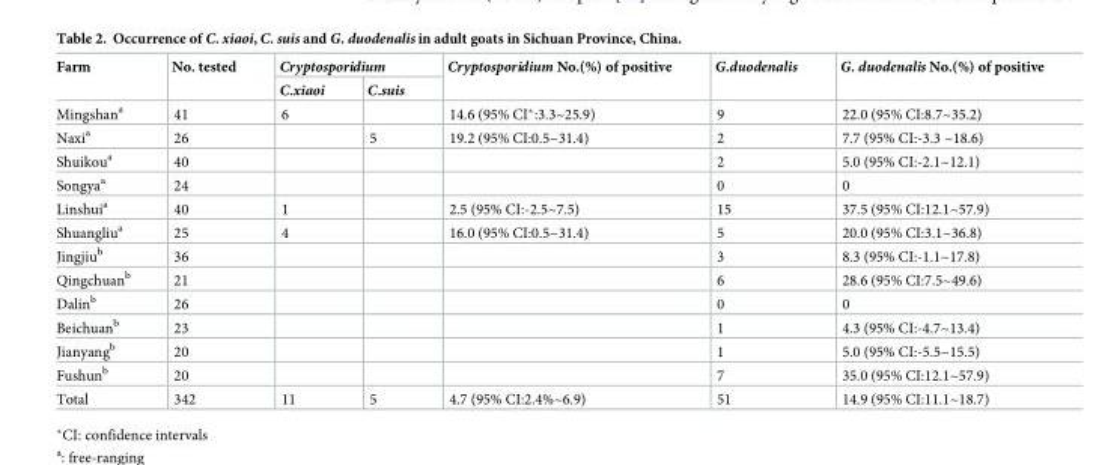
<table><thead><tr><td rowspan="2">Farm</td><td rowspan="2">No. tested</td><td colspan="2">Cryptosporidium</td><td rowspan="2">Cryptosporidium No.(%) of positive</td><td rowspan="2">G.duodenalis</td><td rowspan="2">G. duodenalis No.(%) of positive</td></tr><tr><td>C.xiaoi</td><td>C.suis</td></tr></thead><tbody><tr><td>Mingshan<sup>a</sup></td><td>41</td><td>6</td><td></td><td>14.6 (95% CI*:3.3~25.9)</td><td>9</td><td>22.0 (95% CI:8.7~35.2)</td></tr><tr><td>Naxi<sup>a</sup></td><td>26</td><td></td><td>5</td><td>19.2 (95% CI:0.5~31.4)</td><td>2</td><td>7.7 (95% CI:-3.3 ~18.6)</td></tr><tr><td>Shuikou<sup>a</sup></td><td>40</td><td></td><td></td><td></td><td>2</td><td>5.0 (95% CI:-2.1~12.1)</td></tr><tr><td>Songya<sup>a</sup></td><td>24</td><td></td><td></td><td></td><td>0</td><td>0</td></tr><tr><td>Linshui<sup>a</sup></td><td>40</td><td>1</td><td></td><td>2.5 (95% CI:-2.5~7.5)</td><td>15</td><td>37.5 (95% CI:12.1~57.9)</td></tr><tr><td>Shuangliu<sup>a</sup></td><td>25</td><td>4</td><td></td><td>16.0 (95% CI:0.5~31.4)</td><td>5</td><td>20.0 (95% CI:3.1~36.8)</td></tr><tr><td>Jingjiu<sup>b</sup></td><td>36</td><td></td><td></td><td></td><td>3</td><td>8.3 (95% CI:-1.1~17.8)</td></tr><tr><td>Qingchuan<sup>b</sup></td><td>21</td><td></td><td></td><td></td><td>6</td><td>28.6 (95% CI:7.5~49.6)</td></tr><tr><td>Dalin<sup>b</sup></td><td>26</td><td></td><td></td><td></td><td>0</td><td>0</td></tr><tr><td>Beichuan<sup>b</sup></td><td>23</td><td></td><td></td><td></td><td>1</td><td>4.3 (95% CI:-4.7~13.4)</td></tr><tr><td>Jianyang<sup>b</sup></td><td>20</td><td></td><td></td><td></td><td>1</td><td>5.0 (95% CI:-5.5~15.5)</td></tr><tr><td>Fushun<sup>b</sup></td><td>20</td><td></td><td></td><td></td><td>7</td><td>35.0 (95% CI:12.1~57.9)</td></tr><tr><td>Total</td><td>342</td><td>11</td><td>5</td><td>4.7 (95% CI:2.4%~6.9)</td><td>51</td><td>14.9 (95% CI:11.1~18.7)</td></tr></tbody></table>